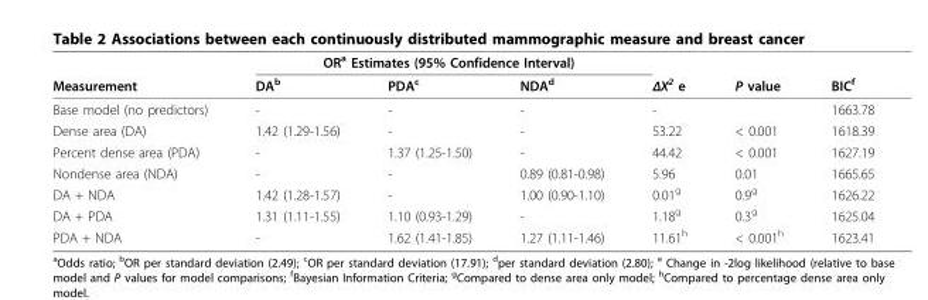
<table><thead><tr><td rowspan="2">Measurement</td><td colspan="3">OR<sup>a</sup> Estimates (95% Confidence Interval)</td><td rowspan="2">ΔΧ<sup>2</sup> e</td><td rowspan="2">P value</td><td rowspan="2">BIC<sup>f</sup></td></tr><tr><td>DA<sup>b</sup></td><td>PDA<sup>c</sup></td><td>NDA<sup>d</sup></td></tr></thead><tbody><tr><td>Base model (no predictors)</td><td>-</td><td>-</td><td>-</td><td>-</td><td></td><td>1663.78</td></tr><tr><td>Dense area (DA)</td><td>1.42 (1.29-1.56)</td><td>-</td><td>-</td><td>53.22</td><td>&lt; 0.001</td><td>1618.39</td></tr><tr><td>Percent dense area (PDA)</td><td>-</td><td>1.37 (1.25-1.50)</td><td>-</td><td>44.42</td><td>&lt; 0.001</td><td>1627.19</td></tr><tr><td>Nondense area (NDA)</td><td>-</td><td>-</td><td>0.89 (0.81-0.98)</td><td>5.96</td><td>0.01</td><td>1665.65</td></tr><tr><td>DA + NDA</td><td>1.42 (1.28-1.57)</td><td>-</td><td>1.00 (0.90-1.10)</td><td>0.01<sup>g</sup></td><td>0.9<sup>g</sup></td><td>1626.22</td></tr><tr><td>DA + PDA</td><td>1.31 (1.11-1.55)</td><td>1.10 (0.93-1.29)</td><td>-</td><td>1.18<sup>g</sup></td><td>0.3<sup>g</sup></td><td>1625.04</td></tr><tr><td>PDA + NDA</td><td>-</td><td>1.62 (1.41-1.85)</td><td>1.27 (1.11-1.46)</td><td>11.61<sup>h</sup></td><td>&lt; 0.001<sup>h</sup></td><td>1623.41</td></tr></tbody></table>